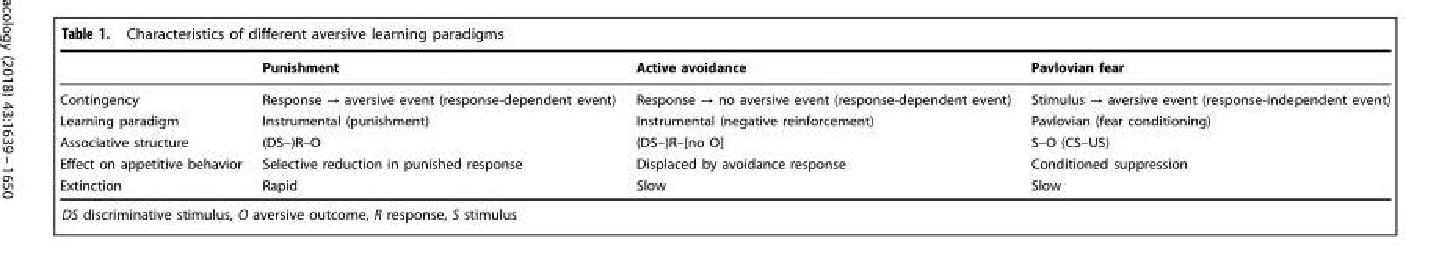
<table><thead><tr><td></td><td>Punishment</td><td>Active avoidance</td><td>Pavlovian fear</td></tr></thead><tbody><tr><td>Contingency</td><td>Response → aversive event (response-dependent event)</td><td>Response → no aversive event (response-dependent event)</td><td>Stimulus → aversive event (response-independent event)</td></tr><tr><td>Learning paradigm</td><td>Instrumental (punishment)</td><td>Instrumental (negative reinforcement)</td><td>Pavlovian (fear conditioning)</td></tr><tr><td>Associative structure</td><td>(DS–)R–O</td><td>(DS–)R–[no O]</td><td>S–O (CS–US)</td></tr><tr><td>Effect on appetitive behavior</td><td>Selective reduction in punished response</td><td>Displaced by avoidance response</td><td>Conditioned suppression</td></tr><tr><td>Extinction</td><td>Rapid</td><td>Slow</td><td>Slow</td></tr></tbody></table>